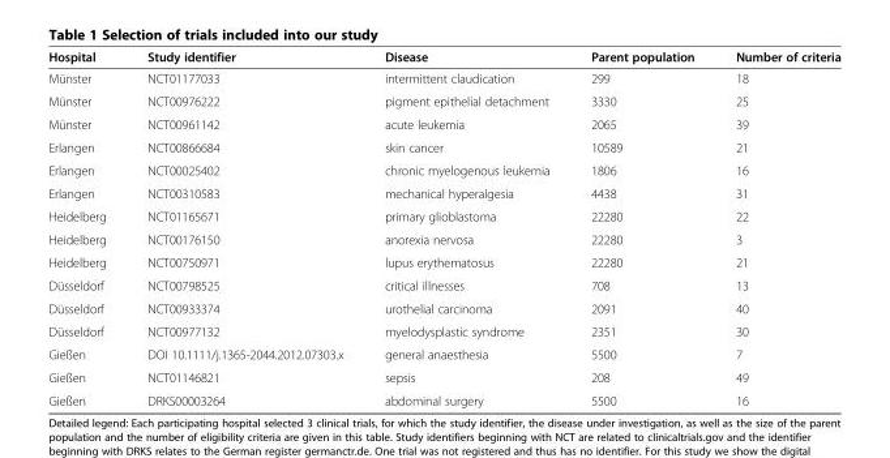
<table><thead><tr><td>Hospital</td><td>Study identifier</td><td>Disease</td><td>Parent population</td><td>Number of criteria</td></tr></thead><tbody><tr><td>Münster</td><td>NCT01177033</td><td>intermittent claudication</td><td>299</td><td>18</td></tr><tr><td>Münster</td><td>NCT00976222</td><td>pigment epithelial detachment</td><td>3330</td><td>25</td></tr><tr><td>Münster</td><td>NCT00961142</td><td>acute leukemia</td><td>2065</td><td>39</td></tr><tr><td>Erlangen</td><td>NCT00866684</td><td>skin cancer</td><td>10589</td><td>21</td></tr><tr><td>Erlangen</td><td>NCT00025402</td><td>chronic myelogenous leukemia</td><td>1806</td><td>16</td></tr><tr><td>Erlangen</td><td>NCT00310583</td><td>mechanical hyperalgesia</td><td>4438</td><td>31</td></tr><tr><td>Heidelberg</td><td>NCT01165671</td><td>primary glioblastoma</td><td>22280</td><td>22</td></tr><tr><td>Heidelberg</td><td>NCT00176150</td><td>anorexia nervosa</td><td>22280</td><td>3</td></tr><tr><td>Heidelberg</td><td>NCT00750971</td><td>lupus erythematosus</td><td>22280</td><td>21</td></tr><tr><td>Düsseldorf</td><td>NCT00798525</td><td>critical illnesses</td><td>708</td><td>13</td></tr><tr><td>Düsseldorf</td><td>NCT00933374</td><td>urothelial carcinoma</td><td>2091</td><td>40</td></tr><tr><td>Düsseldorf</td><td>NCT00977132</td><td>myelodysplastic syndrome</td><td>2351</td><td>30</td></tr><tr><td>Gießen</td><td>DOI 10.1111/j.1365-2044.2012.07303.x</td><td>general anaesthesia</td><td>5500</td><td>7</td></tr><tr><td>Gießen</td><td>NCT01146821</td><td>sepsis</td><td>208</td><td>49</td></tr><tr><td>Gießen</td><td>DRKS00003264</td><td>abdominal surgery</td><td>5500</td><td>16</td></tr></tbody></table>